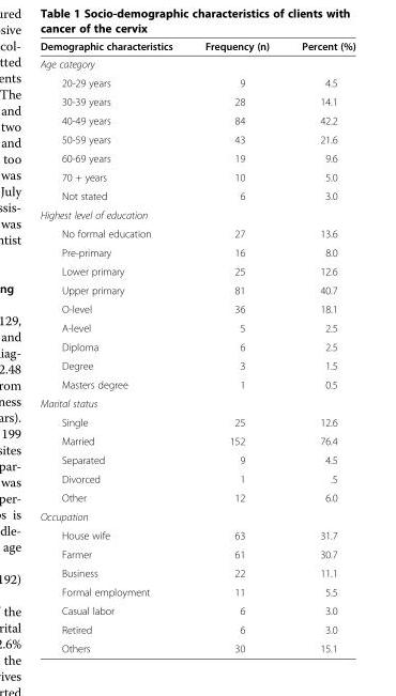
<table><thead><tr><td>Demographic characteristics</td><td>Frequency (n)</td><td>Percent (%)</td></tr></thead><tbody><tr><td colspan="3">Age category</td></tr><tr><td>20-29 years</td><td>9</td><td>4.5</td></tr><tr><td>30-39 years</td><td>28</td><td>14.1</td></tr><tr><td>40-49 years</td><td>84</td><td>42.2</td></tr><tr><td>50-59 years</td><td>43</td><td>21.6</td></tr><tr><td>60-69 years</td><td>19</td><td>9.6</td></tr><tr><td>70 + years</td><td>10</td><td>5.0</td></tr><tr><td>Not stated</td><td>6</td><td>3.0</td></tr><tr><td colspan="3">Highest level of education</td></tr><tr><td>No formal education</td><td>27</td><td>13.6</td></tr><tr><td>Pre-primary</td><td>16</td><td>8.0</td></tr><tr><td>Lower primary</td><td>25</td><td>12.6</td></tr><tr><td>Upper primary</td><td>81</td><td>40.7</td></tr><tr><td>O-level</td><td>36</td><td>18.1</td></tr><tr><td>A-level</td><td>5</td><td>2.5</td></tr><tr><td>Diploma</td><td>6</td><td>2.5</td></tr><tr><td>Degree</td><td>3</td><td>1.5</td></tr><tr><td>Masters degree</td><td>1</td><td>0.5</td></tr><tr><td colspan="3">Marital status</td></tr><tr><td>Single</td><td>25</td><td>12.6</td></tr><tr><td>Married</td><td>152</td><td>76.4</td></tr><tr><td>Separated</td><td>9</td><td>4.5</td></tr><tr><td>Divorced</td><td>1</td><td>.5</td></tr><tr><td>Other</td><td>12</td><td>6.0</td></tr><tr><td colspan="3">Occupation</td></tr><tr><td>House wife</td><td>63</td><td>31.7</td></tr><tr><td>Farmer</td><td>61</td><td>30.7</td></tr><tr><td>Business</td><td>22</td><td>11.1</td></tr><tr><td>Formal employment</td><td>11</td><td>5.5</td></tr><tr><td>Casual labor</td><td>6</td><td>3.0</td></tr><tr><td>Retired</td><td>6</td><td>3.0</td></tr><tr><td>Others</td><td>30</td><td>15.1</td></tr></tbody></table>